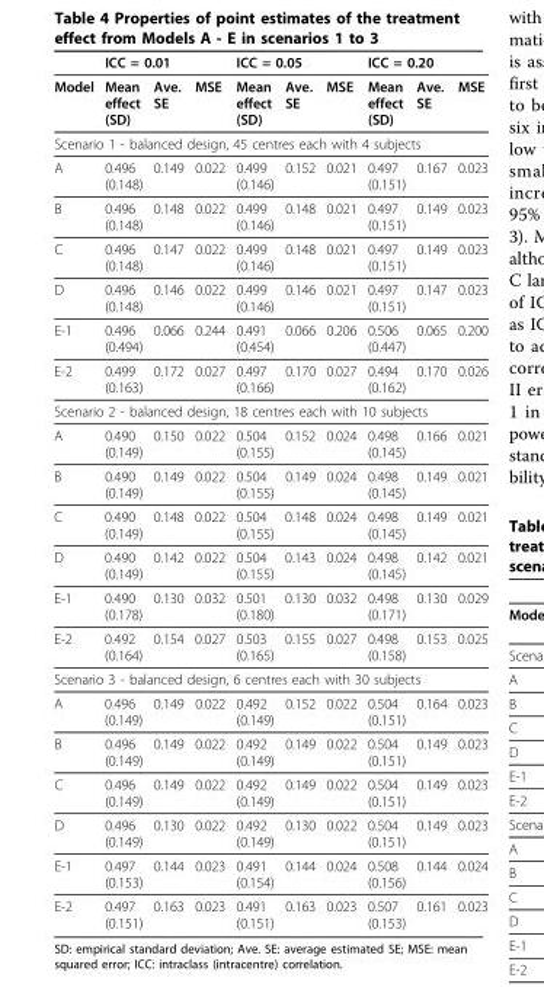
<table><thead><tr><td rowspan="2">Model</td><td colspan="3">ICC = 0.01</td><td colspan="3">ICC = 0.05</td><td colspan="3">ICC = 0.20</td></tr><tr><td>Mean effect (SD)</td><td>Ave. SE</td><td>MSE</td><td>Mean effect (SD)</td><td>Ave. SE</td><td>MSE</td><td>Mean effect (SD)</td><td>Ave. SE</td><td>MSE</td></tr></thead><tbody><tr><td colspan="10">Scenario 1 - balanced design, 45 centres each with 4 subjects</td></tr><tr><td>A</td><td>0.496 (0.148)</td><td>0.149</td><td>0.022</td><td>0.499 (0.146)</td><td>0.152</td><td>0.021</td><td>0.497 (0.151)</td><td>0.167</td><td>0.023</td></tr><tr><td>B</td><td>0.496 (0.148)</td><td>0.148</td><td>0.022</td><td>0.499 (0.146)</td><td>0.148</td><td>0.021</td><td>0.497 (0.151)</td><td>0.149</td><td>0.023</td></tr><tr><td>C</td><td>0.496 (0.148)</td><td>0.147</td><td>0.022</td><td>0.499 (0.146)</td><td>0.148</td><td>0.021</td><td>0.497 (0.151)</td><td>0.149</td><td>0.023</td></tr><tr><td>D</td><td>0.496 (0.148)</td><td>0.146</td><td>0.022</td><td>0.499 (0.146)</td><td>0.146</td><td>0.021</td><td>0.497 (0.151)</td><td>0.147</td><td>0.023</td></tr><tr><td>E-1</td><td>0.496 (0.494)</td><td>0.066</td><td>0.244</td><td>0.491 (0.454)</td><td>0.066</td><td>0.206</td><td>0.506 (0.447)</td><td>0.065</td><td>0.200</td></tr><tr><td>E-2</td><td>0.499 (0.163)</td><td>0.172</td><td>0.027</td><td>0.497 (0.166)</td><td>0.170</td><td>0.027</td><td>0.494 (0.162)</td><td>0.170</td><td>0.026</td></tr><tr><td colspan="10">Scenario 2 - balanced design, 18 centres each with 10 subjects</td></tr><tr><td>A</td><td>0.490 (0.149)</td><td>0.150</td><td>0.022</td><td>0.504 (0.155)</td><td>0.152</td><td>0.024</td><td>0.498 (0.145)</td><td>0.166</td><td>0.021</td></tr><tr><td>B</td><td>0.490 (0.149)</td><td>0.149</td><td>0.022</td><td>0.504 (0.155)</td><td>0.149</td><td>0.024</td><td>0.498 (0.145)</td><td>0.149</td><td>0.021</td></tr><tr><td>C</td><td>0.490 (0.149)</td><td>0.148</td><td>0.022</td><td>0.504 (0.155)</td><td>0.148</td><td>0.024</td><td>0.498 (0.145)</td><td>0.149</td><td>0.021</td></tr><tr><td>D</td><td>0.490 (0.149)</td><td>0.142</td><td>0.022</td><td>0.504 (0.155)</td><td>0.143</td><td>0.024</td><td>0.498 (0.145)</td><td>0.142</td><td>0.021</td></tr><tr><td>E-1</td><td>0.490 (0.178)</td><td>0.130</td><td>0.032</td><td>0.501 (0.180)</td><td>0.130</td><td>0.032</td><td>0.498 (0.171)</td><td>0.130</td><td>0.029</td></tr><tr><td>E-2</td><td>0.492 (0.164)</td><td>0.154</td><td>0.027</td><td>0.503 (0.165)</td><td>0.155</td><td>0.027</td><td>0.498 (0.158)</td><td>0.153</td><td>0.025</td></tr><tr><td colspan="10">Scenario 3 - balanced design, 6 centres each with 30 subjects</td></tr><tr><td>A</td><td>0.496 (0.149)</td><td>0.149</td><td>0.022</td><td>0.492 (0.149)</td><td>0.152</td><td>0.022</td><td>0.504 (0.151)</td><td>0.164</td><td>0.023</td></tr><tr><td>B</td><td>0.496 (0.149)</td><td>0.149</td><td>0.022</td><td>0.492 (0.149)</td><td>0.149</td><td>0.022</td><td>0.504 (0.151)</td><td>0.149</td><td>0.023</td></tr><tr><td>C</td><td>0.496 (0.149)</td><td>0.149</td><td>0.022</td><td>0.492 (0.149)</td><td>0.149</td><td>0.022</td><td>0.504 (0.151)</td><td>0.149</td><td>0.023</td></tr><tr><td>D</td><td>0.496 (0.149)</td><td>0.130</td><td>0.022</td><td>0.492 (0.149)</td><td>0.130</td><td>0.022</td><td>0.504 (0.151)</td><td>0.149</td><td>0.023</td></tr><tr><td>E-1</td><td>0.497 (0.153)</td><td>0.144</td><td>0.023</td><td>0.491 (0.154)</td><td>0.144</td><td>0.024</td><td>0.508 (0.156)</td><td>0.144</td><td>0.024</td></tr><tr><td>E-2</td><td>0.497 (0.151)</td><td>0.163</td><td>0.023</td><td>0.491 (0.151)</td><td>0.163</td><td>0.023</td><td>0.507 (0.153)</td><td>0.161</td><td>0.023</td></tr></tbody></table>